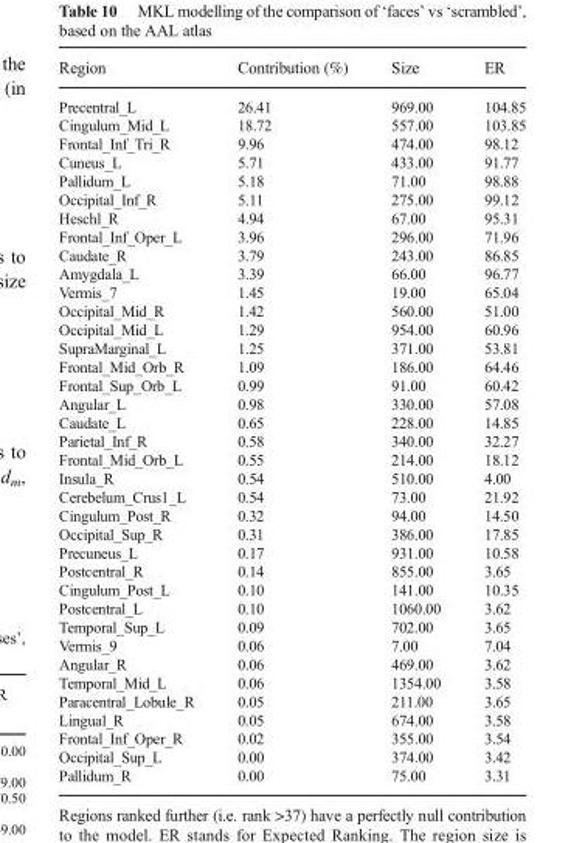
<table><thead><tr><td>Region</td><td>Contribution (%)</td><td>Size</td><td>ER</td></tr></thead><tbody><tr><td>Precentral_L</td><td>26.41</td><td>969.00</td><td>104.85</td></tr><tr><td>Cingulum_Mid_L</td><td>18.72</td><td>557.00</td><td>103.85</td></tr><tr><td>Frontal_Inf_Tri_R</td><td>9.96</td><td>474.00</td><td>98.12</td></tr><tr><td>Cuneus_L</td><td>5.71</td><td>433.00</td><td>91.77</td></tr><tr><td>Pallidum_L</td><td>5.18</td><td>71.00</td><td>98.88</td></tr><tr><td>Occipital_Inf_R</td><td>5.11</td><td>275.00</td><td>99.12</td></tr><tr><td>Heschl_R</td><td>4.94</td><td>67.00</td><td>95.31</td></tr><tr><td>Frontal_Inf_Oper_L</td><td>3.96</td><td>296.00</td><td>71.96</td></tr><tr><td>Caudate_R</td><td>3.79</td><td>243.00</td><td>86.85</td></tr><tr><td>Amygdala_L</td><td>3.39</td><td>66.00</td><td>96.77</td></tr><tr><td>Vermis_7</td><td>1.45</td><td>19.00</td><td>65.04</td></tr><tr><td>Occipital_Mid_R</td><td>1.42</td><td>560.00</td><td>51.00</td></tr><tr><td>Occipital_Mid_L</td><td>1.29</td><td>954.00</td><td>60.96</td></tr><tr><td>SupraMarginal_L</td><td>1.25</td><td>371.00</td><td>53.81</td></tr><tr><td>Frontal_Mid_Orb_R</td><td>1.09</td><td>186.00</td><td>64.46</td></tr><tr><td>Frontal_Sup_Orb_L</td><td>0.99</td><td>91.00</td><td>60.42</td></tr><tr><td>Angular_L</td><td>0.98</td><td>330.00</td><td>57.08</td></tr><tr><td>Caudate_L</td><td>0.65</td><td>228.00</td><td>14.85</td></tr><tr><td>Parietal_Inf_R</td><td>0.58</td><td>340.00</td><td>32.27</td></tr><tr><td>Frontal_Mid_Orb_L</td><td>0.55</td><td>214.00</td><td>18.12</td></tr><tr><td>Insula_R</td><td>0.54</td><td>510.00</td><td>4.00</td></tr><tr><td>Cerebelum_Crus1_L</td><td>0.54</td><td>73.00</td><td>21.92</td></tr><tr><td>Cingulum_Post_R</td><td>0.32</td><td>94.00</td><td>14.50</td></tr><tr><td>Occipital_Sup_R</td><td>0.31</td><td>386.00</td><td>17.85</td></tr><tr><td>Precuneus_L</td><td>0.17</td><td>931.00</td><td>10.58</td></tr><tr><td>Postcentral_R</td><td>0.14</td><td>855.00</td><td>3.65</td></tr><tr><td>Cingulum_Post_L</td><td>0.10</td><td>141.00</td><td>10.35</td></tr><tr><td>Postcentral_L</td><td>0.10</td><td>1060.00</td><td>3.62</td></tr><tr><td>Temporal_Sup_L</td><td>0.09</td><td>702.00</td><td>3.65</td></tr><tr><td>Vermis_9</td><td>0.06</td><td>7.00</td><td>7.04</td></tr><tr><td>Angular_R</td><td>0.06</td><td>469.00</td><td>3.62</td></tr><tr><td>Temporal_Mid_L</td><td>0.06</td><td>1354.00</td><td>3.58</td></tr><tr><td>Paracentral_Lobule_R</td><td>0.05</td><td>211.00</td><td>3.65</td></tr><tr><td>Lingual_R</td><td>0.05</td><td>674.00</td><td>3.58</td></tr><tr><td>Frontal_Inf_Oper_R</td><td>0.02</td><td>355.00</td><td>3.54</td></tr><tr><td>Occipital_Sup_L</td><td>0.00</td><td>374.00</td><td>3.42</td></tr><tr><td>Pallidum_R</td><td>0.00</td><td>75.00</td><td>3.31</td></tr></tbody></table>